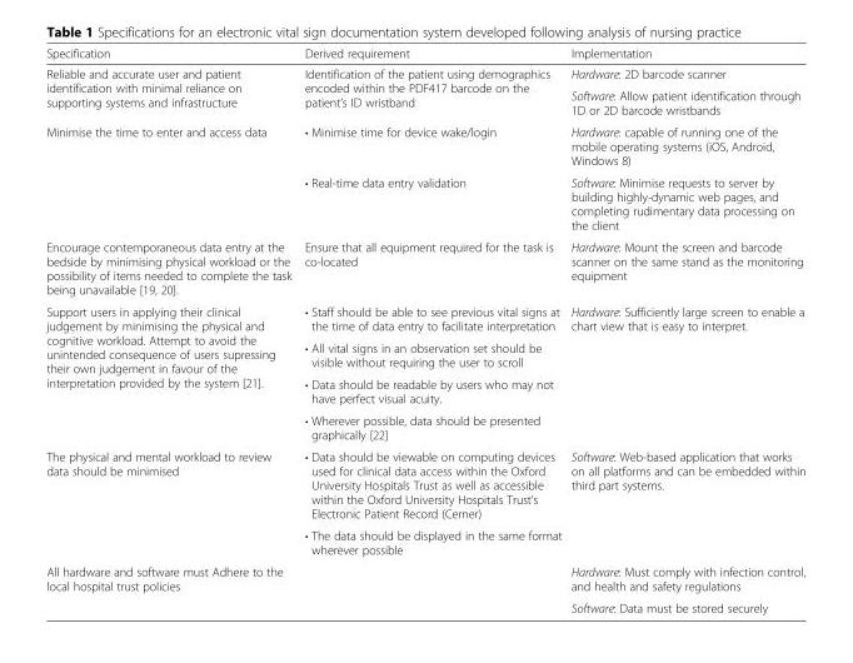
<table><thead><tr><td>Specification</td><td>Derived requirement</td><td>Implementation</td></tr></thead><tbody><tr><td rowspan="2">Reliable and accurate user and patient identification with minimal reliance on supporting systems and infrastructure</td><td rowspan="2">Identification of the patient using demographics encoded within the PDF417 barcode on the patient’s ID wristband</td><td>Hardware: 2D barcode scanner</td></tr><tr><td>Software: Allow patient identification through 1D or 2D barcode wristbands</td></tr><tr><td rowspan="2">Minimise the time to enter and access data</td><td>• Minimise time for device wake/login</td><td>Hardware: capable of running one of the mobile operating systems (iOS, Android, Windows 8)</td></tr><tr><td>• Real-time data entry validation</td><td>Software: Minimise requests to server by building highly-dynamic web pages, and completing rudimentary data processing on the client</td></tr><tr><td>Encourage contemporaneous data entry at the bedside by minimising physical workload or the possibility of items needed to complete the task being unavailable [19, 20].</td><td>Ensure that all equipment required for the task is co-located</td><td>Hardware: Mount the screen and barcode scanner on the same stand as the monitoring equipment</td></tr><tr><td rowspan="4">Support users in applying their clinical judgement by minimising the physical and cognitive workload. Attempt to avoid the unintended consequence of users supressing their own judgement in favour of the interpretation provided by the system [21].</td><td>• Staff should be able to see previous vital signs at the time of data entry to facilitate interpretation</td><td rowspan="4">Hardware: Sufficiently large screen to enable a chart view that is easy to interpret.</td></tr><tr><td>• All vital signs in an observation set should be visible without requiring the user to scroll</td></tr><tr><td>• Data should be readable by users who may not have perfect visual acuity.</td></tr><tr><td>• Wherever possible, data should be presented graphically [22]</td></tr><tr><td rowspan="2">The physical and mental workload to review data should be minimised</td><td>• Data should be viewable on computing devices used for clinical data access within the Oxford University Hospitals Trust as well as accessible within the Oxford University Hospitals Trust’s Electronic Patient Record (Cerner)</td><td rowspan="2">Software: Web-based application that works on all platforms and can be embedded within third part systems.</td></tr><tr><td>• The data should be displayed in the same format wherever possible</td></tr><tr><td rowspan="2">All hardware and software must Adhere to the local hospital trust policies</td><td rowspan="2"></td><td>Hardware: Must comply with infection control, and health and safety regulations</td></tr><tr><td>Software: Data must be stored securely</td></tr></tbody></table>